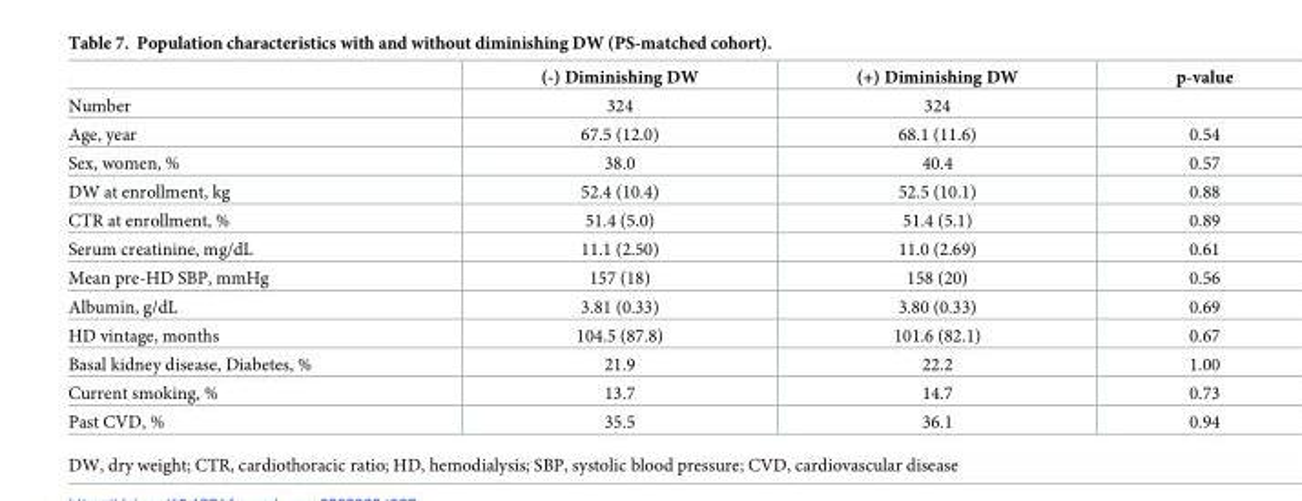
<table><thead><tr><td></td><td>(-) Diminishing DW</td><td>(+) Diminishing DW</td><td>p-value</td></tr></thead><tbody><tr><td>Number</td><td>324</td><td>324</td><td></td></tr><tr><td>Age, year</td><td>67.5 (12.0)</td><td>68.1 (11.6)</td><td>0.54</td></tr><tr><td>Sex, women, %</td><td>38.0</td><td>40.4</td><td>0.57</td></tr><tr><td>DW at enrollment, kg</td><td>52.4 (10.4)</td><td>52.5 (10.1)</td><td>0.88</td></tr><tr><td>CTR at enrollment, %</td><td>51.4 (5.0)</td><td>51.4 (5.1)</td><td>0.89</td></tr><tr><td>Serum creatinine, mg/dL</td><td>11.1 (2.50)</td><td>11.0 (2.69)</td><td>0.61</td></tr><tr><td>Mean pre-HD SBP, mmHg</td><td>157 (18)</td><td>158 (20)</td><td>0.56</td></tr><tr><td>Albumin, g/dL</td><td>3.81 (0.33)</td><td>3.80 (0.33)</td><td>0.69</td></tr><tr><td>HD vintage, months</td><td>104.5 (87.8)</td><td>101.6 (82.1)</td><td>0.67</td></tr><tr><td>Basal kidney disease, Diabetes, %</td><td>21.9</td><td>22.2</td><td>1.00</td></tr><tr><td>Current smoking, %</td><td>13.7</td><td>14.7</td><td>0.73</td></tr><tr><td>Past CVD, %</td><td>35.5</td><td>36.1</td><td>0.94</td></tr></tbody></table>